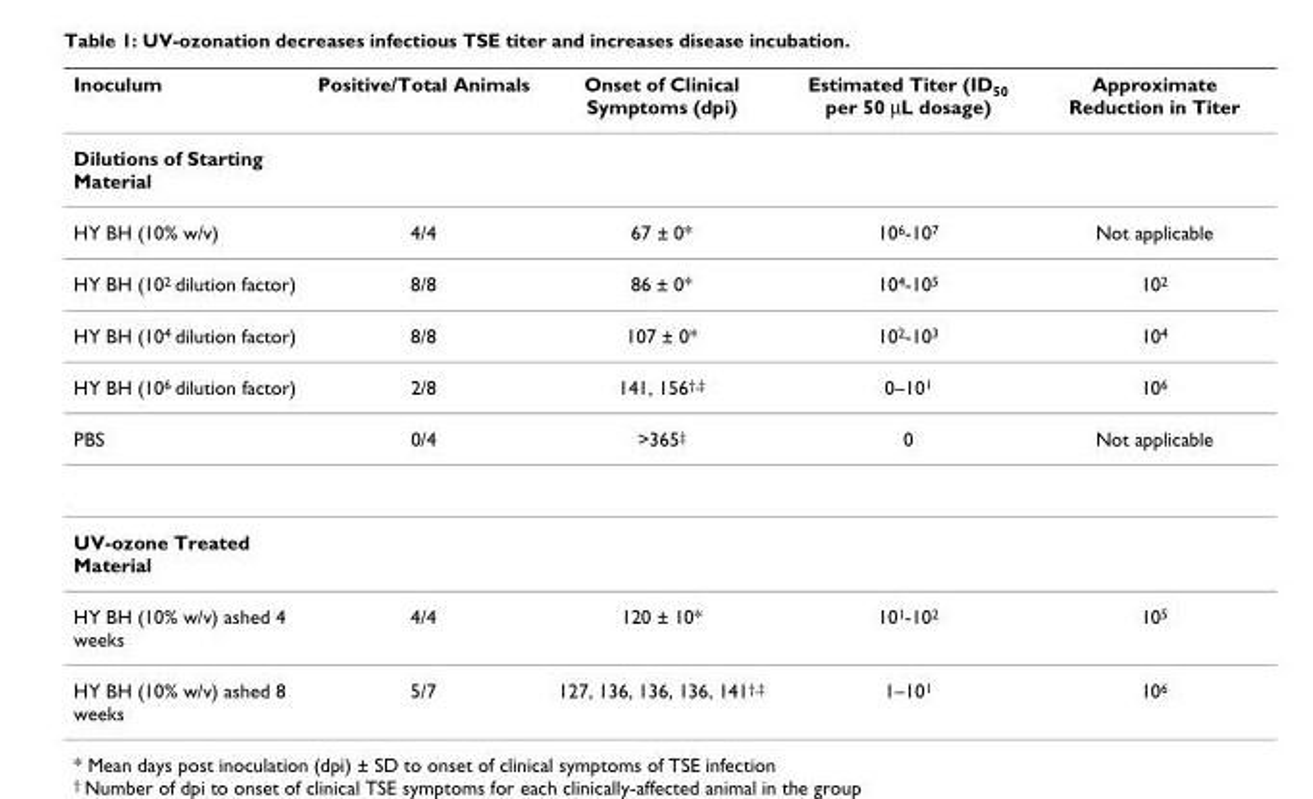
<table><thead><tr><td>Inoculum</td><td>Positive/Total Animals</td><td>Onset of Clinical Symptoms (dpi)</td><td>Estimated Titer (ID<sub>50</sub> per 50 μL dosage)</td><td>Approximate Reduction in Titer</td></tr></thead><tbody><tr><td colspan="5">Dilutions of Starting Material</td></tr><tr><td>HY BH (10% w/v)</td><td>4/4</td><td>67 ± 0*</td><td>10<sup>6</sup>-10<sup>7</sup></td><td>Not applicable</td></tr><tr><td>HY BH (10<sup>2</sup> dilution factor)</td><td>8/8</td><td>86 ± 0*</td><td>10<sup>4</sup>-10<sup>5</sup></td><td>10<sup>2</sup></td></tr><tr><td>HY BH (10<sup>4</sup> dilution factor)</td><td>8/8</td><td>107 ± 0*</td><td>10<sup>2</sup>-10<sup>3</sup></td><td>10<sup>4</sup></td></tr><tr><td>HY BH (10<sup>6</sup> dilution factor)</td><td>2/8</td><td>141, 156<sup>†,‡</sup></td><td>0–10<sup>1</sup></td><td>106</td></tr><tr><td>PBS</td><td>0/4</td><td>&gt;365<sup>‡</sup></td><td>0</td><td>Not applicable</td></tr><tr><td colspan="5">UV-ozone Treated Material</td></tr><tr><td>HY BH (10% w/v) ashed 4 weeks</td><td>4/4</td><td>120 ± 10*</td><td>101-102</td><td>105</td></tr><tr><td>HY BH (10% w/v) ashed 8 weeks</td><td>5/7</td><td>127, 136, 136, 136, 141†,‡</td><td>1–101</td><td>106</td></tr></tbody></table>